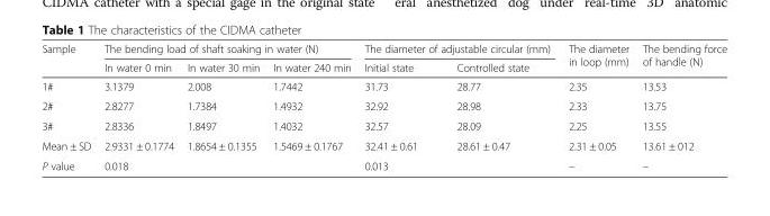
<table><thead><tr><td rowspan="2">Sample</td><td colspan="3">The bending load of shaft soaking in water (N)</td><td colspan="2">The diameter of adjustable circular (mm)</td><td rowspan="2">The diameter in loop (mm)</td><td rowspan="2">The bending force of handle (N)</td></tr><tr><td>In water 0 min</td><td>In water 30 min</td><td>In water 240 min</td><td>Initial state</td><td>Controlled state</td></tr></thead><tbody><tr><td>1#</td><td>3.1379</td><td>2.008</td><td>1.7442</td><td>31.73</td><td>28.77</td><td>2.35</td><td>13.53</td></tr><tr><td>2#</td><td>2.8277</td><td>1.7384</td><td>1.4932</td><td>32.92</td><td>28.98</td><td>2.33</td><td>13.75</td></tr><tr><td>3#</td><td>2.8336</td><td>1.8497</td><td>1.4032</td><td>32.57</td><td>28.09</td><td>2.25</td><td>13.55</td></tr><tr><td>Mean ± SD</td><td>2.9331 ± 0.1774</td><td>1.8654 ± 0.1355</td><td>1.5469 ± 0.1767</td><td>32.41 ± 0.61</td><td>28.61 ± 0.47</td><td>2.31 ± 0.05</td><td>13.61 ± 012</td></tr><tr><td>P value</td><td colspan="3">0.018</td><td colspan="2">0.013</td><td>–</td><td>–</td></tr></tbody></table>